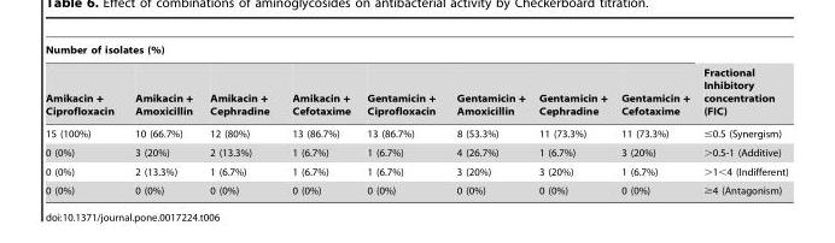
<table><thead><tr><td colspan="8">Number of isolates (%)</td><td rowspan="2">Fractional Inhibitory concentration (FIC)</td></tr><tr><td>Amikacin + Ciprofloxacin</td><td>Amikacin + Amoxicillin</td><td>Amikacin + Cephradine</td><td>Amikacin + Cefotaxime</td><td>Gentamicin + Ciprofloxacin</td><td>Gentamicin + Amoxicillin</td><td>Gentamicin + Cephradine</td><td>Gentamicin + Cefotaxime</td></tr></thead><tbody><tr><td>15 (100%)</td><td>10 (66.7%)</td><td>12 (80%)</td><td>13 (86.7%)</td><td>13 (86.7%)</td><td>8 (53.3%)</td><td>11 (73.3%)</td><td>11 (73.3%)</td><td>≤0.5 (Synergism)</td></tr><tr><td>0 (0%)</td><td>3 (20%)</td><td>2 (13.3%)</td><td>1 (6.7%)</td><td>1 (6.7%)</td><td>4 (26.7%)</td><td>1 (6.7%)</td><td>3 (20%)</td><td>&gt;0.5-1 (Additive)</td></tr><tr><td>0 (0%)</td><td>2 (13.3%)</td><td>1 (6.7%)</td><td>1 (6.7%)</td><td>1 (6.7%)</td><td>3 (20%)</td><td>3 (20%)</td><td>1 (6.7%)</td><td>&gt;1&lt;4 (Indifferent)</td></tr><tr><td>0 (0%)</td><td>0 (0%)</td><td>0 (0%)</td><td>0 (0%)</td><td>0 (0%)</td><td>0 (0%)</td><td>0 (0%)</td><td>0 (0%)</td><td>≥4 (Antagonism)</td></tr></tbody></table>